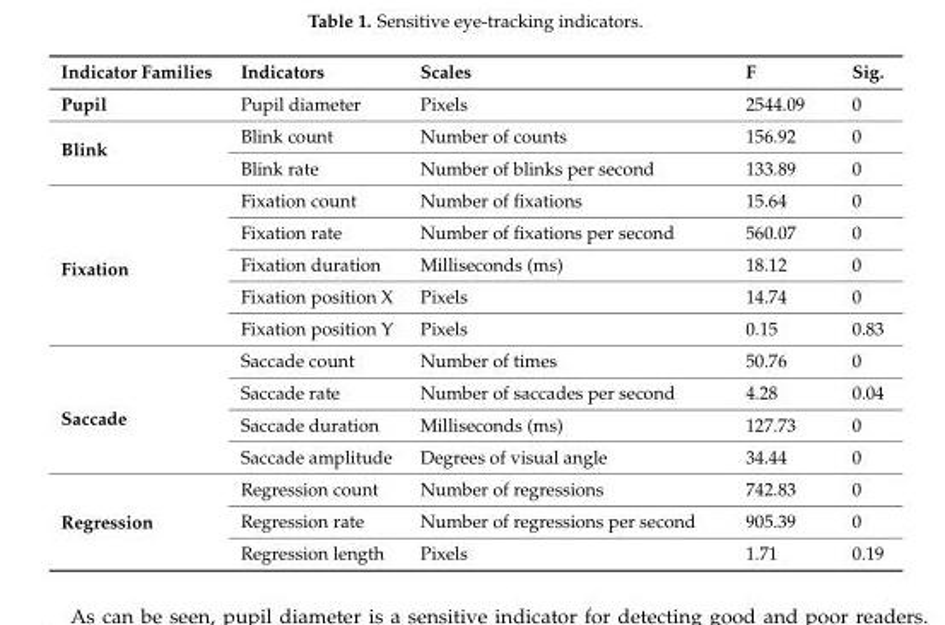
<table><thead><tr><td>Indicator Families</td><td>Indicators</td><td>Scales</td><td>F</td><td>Sig.</td></tr></thead><tbody><tr><td>Pupil</td><td>Pupil diameter</td><td>Pixels</td><td>2544.09</td><td>0</td></tr><tr><td rowspan="2">Blink</td><td>Blink count</td><td>Number of counts</td><td>156.92</td><td>0</td></tr><tr><td>Blink rate</td><td>Number of blinks per second</td><td>133.89</td><td>0</td></tr><tr><td rowspan="5">Fixation</td><td>Fixation count</td><td>Number of fixations</td><td>15.64</td><td>0</td></tr><tr><td>Fixation rate</td><td>Number of fixations per second</td><td>560.07</td><td>0</td></tr><tr><td>Fixation duration</td><td>Milliseconds (ms)</td><td>18.12</td><td>0</td></tr><tr><td>Fixation position X</td><td>Pixels</td><td>14.74</td><td>0</td></tr><tr><td>Fixation position Y</td><td>Pixels</td><td>0.15</td><td>0.83</td></tr><tr><td rowspan="4">Saccade</td><td>Saccade count</td><td>Number of times</td><td>50.76</td><td>0</td></tr><tr><td>Saccade rate</td><td>Number of saccades per second</td><td>4.28</td><td>0.04</td></tr><tr><td>Saccade duration</td><td>Milliseconds (ms)</td><td>127.73</td><td>0</td></tr><tr><td>Saccade amplitude</td><td>Degrees of visual angle</td><td>34.44</td><td>0</td></tr><tr><td rowspan="3">Regression</td><td>Regression count</td><td>Number of regressions</td><td>742.83</td><td>0</td></tr><tr><td>Regression rate</td><td>Number of regressions per second</td><td>905.39</td><td>0</td></tr><tr><td>Regression length</td><td>Pixels</td><td>1.71</td><td>0.19</td></tr></tbody></table>